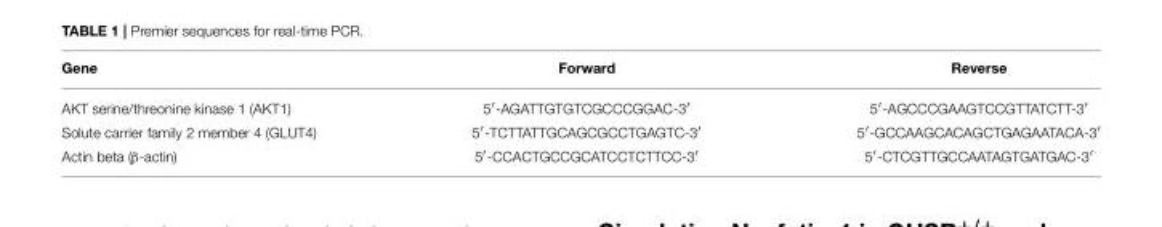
<table><thead><tr><td>Gene</td><td>Forward</td><td>Reverse</td></tr></thead><tbody><tr><td>AKT serine/threonine kinase 1 (AKT1)</td><td>5′-AGATTGTGTCGCCCGGAC-3′</td><td>5′-AGCCCGAAGTCCGTTATCTT-3′</td></tr><tr><td>Solute carrier family 2 member 4 (GLUT4)</td><td>5′-TCTTATTGCAGCGCCTGAGTC-3′</td><td>5′-GCCAAGCACAGCTGAGAATACA-3′</td></tr><tr><td>Actin beta (β-actin)</td><td>5′-CCACTGCCGCATCCTCTTCC-3′</td><td>5′-CTCGTTGCCAATAGTGATGAC-3′</td></tr></tbody></table>